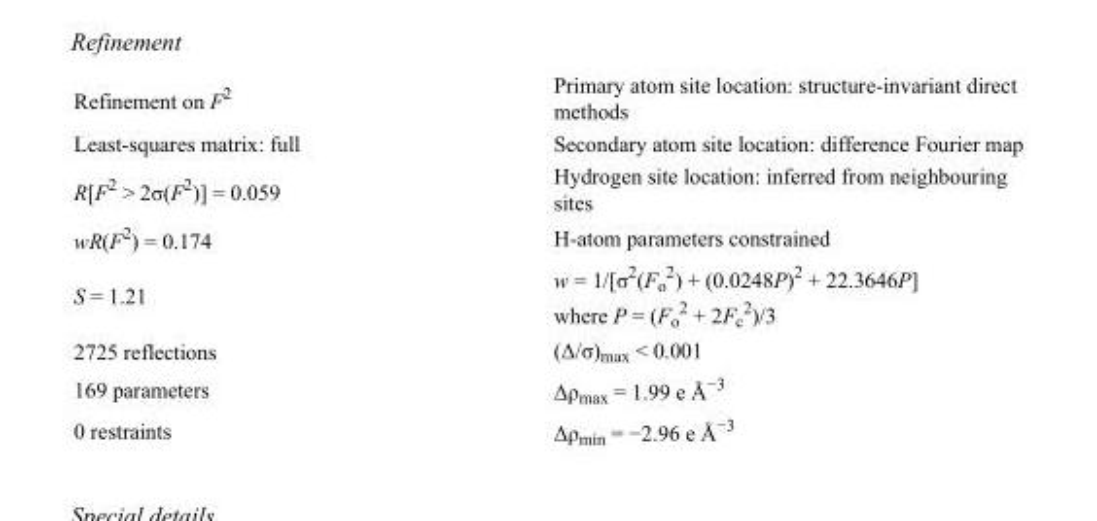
<table><tbody><tr><td>Refinement on F<sup>2</sup></td><td>Primary atom site location: structure-invariant direct methods</td></tr><tr><td>Least-squares matrix: full</td><td>Secondary atom site location: difference Fourier map</td></tr><tr><td>R[F<sup>2</sup> &gt; 2σ(F<sup>2</sup>)] = 0.059</td><td>Hydrogen site location: inferred from neighbouring sites</td></tr><tr><td>wR(F<sup>2</sup>) = 0.174</td><td>H-atom parameters constrained</td></tr><tr><td>S = 1.21</td><td>w = 1/[σ<sup>2</sup>(F<sub>o</sub> <sup>2</sup>) + (0.0248P)<sup>2</sup> + 22.3646P] where P = (F<sub>o</sub> <sup>2</sup> + 2F<sub>c</sub> <sup>2</sup>)/3</td></tr><tr><td>2725 reflections</td><td>(Δ/σ)<sub>max</sub> &lt; 0.001</td></tr><tr><td>169 parameters</td><td>Δρ<sub>max</sub> = 1.99 e Å<sup>−3</sup></td></tr><tr><td>0 restraints</td><td>Δρ<sub>min</sub> = −2.96 e Å<sup>−3</sup></td></tr></tbody></table>